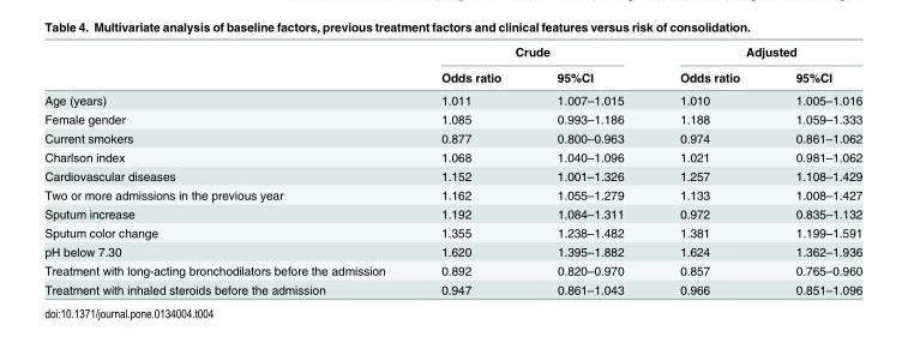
<table><thead><tr><td rowspan="2"></td><td colspan="2">Crude</td><td colspan="2">Adjusted</td></tr><tr><td>Odds ratio</td><td>95%CI</td><td>Odds ratio</td><td>95%CI</td></tr></thead><tbody><tr><td>Age (years)</td><td>1.011</td><td>1.007–1.015</td><td>1.010</td><td>1.005–1.016</td></tr><tr><td>Female gender</td><td>1.085</td><td>0.993–1.186</td><td>1.188</td><td>1.059–1.333</td></tr><tr><td>Current smokers</td><td>0.877</td><td>0.800–0.963</td><td>0.974</td><td>0.861–1.062</td></tr><tr><td>Charlson index</td><td>1.068</td><td>1.040–1.096</td><td>1.021</td><td>0.981–1.062</td></tr><tr><td>Cardiovascular diseases</td><td>1.152</td><td>1.001–1.326</td><td>1.257</td><td>1.108–1.429</td></tr><tr><td>Two or more admissions in the previous year</td><td>1.162</td><td>1.055–1.279</td><td>1.133</td><td>1.008–1.427</td></tr><tr><td>Sputum increase</td><td>1.192</td><td>1.084–1.311</td><td>0.972</td><td>0.835–1.132</td></tr><tr><td>Sputum color change</td><td>1.355</td><td>1.238–1.482</td><td>1.381</td><td>1.199–1.591</td></tr><tr><td>pH below 7.30</td><td>1.620</td><td>1.395–1.882</td><td>1.624</td><td>1.362–1.936</td></tr><tr><td>Treatment with long-acting bronchodilators before the admission</td><td>0.892</td><td>0.820–0.970</td><td>0.857</td><td>0.765–0.960</td></tr><tr><td>Treatment with inhaled steroids before the admission</td><td>0.947</td><td>0.861–1.043</td><td>0.966</td><td>0.851–1.096</td></tr></tbody></table>